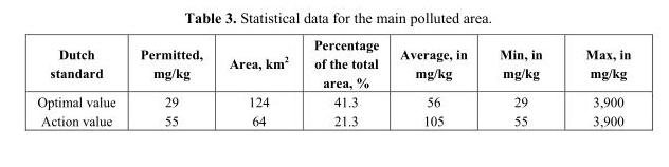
<table><thead><tr><td>Dutch standard</td><td>Permitted, mg/kg</td><td>Area, km<sup>2</sup></td><td>Percentage of the total area, %</td><td>Average, in mg/kg</td><td>Min, in mg/kg</td><td>Max, in mg/kg</td></tr></thead><tbody><tr><td>Optimal value</td><td>29</td><td>124</td><td>41.3</td><td>56</td><td>29</td><td>3,900</td></tr><tr><td>Action value</td><td>55</td><td>64</td><td>21.3</td><td>105</td><td>55</td><td>3,900</td></tr></tbody></table>